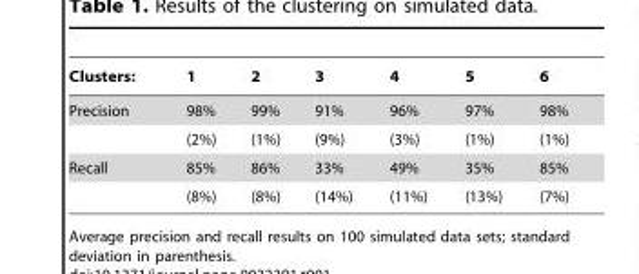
<table><thead><tr><td>Clusters:</td><td>1</td><td>2</td><td>3</td><td>4</td><td>5</td><td>6</td></tr></thead><tbody><tr><td rowspan="2">Precision</td><td>98%</td><td>99%</td><td>91%</td><td>96%</td><td>97%</td><td>98%</td></tr><tr><td>(2%)</td><td>(1%)</td><td>(9%)</td><td>(3%)</td><td>(1%)</td><td>(1%)</td></tr><tr><td rowspan="2">Recall</td><td>85%</td><td>86%</td><td>33%</td><td>49%</td><td>35%</td><td>85%</td></tr><tr><td>(8%)</td><td>(8%)</td><td>(14%)</td><td>(11%)</td><td>(13%)</td><td>(7%)</td></tr></tbody></table>